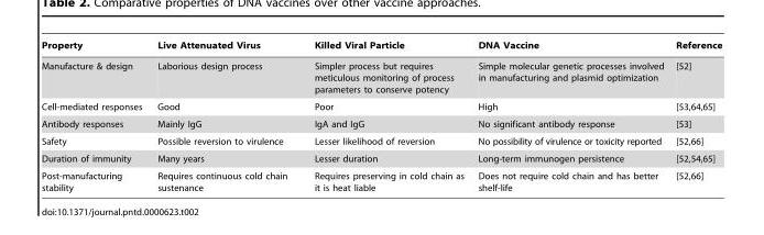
<table><thead><tr><td>Property</td><td>Live Attenuated Virus</td><td>Killed Viral Particle</td><td>DNA Vaccine</td><td>Reference</td></tr></thead><tbody><tr><td>Manufacture &amp; design</td><td>Laborious design process</td><td>Simpler process but requires meticulous monitoring of process parameters to conserve potency</td><td>Simple molecular genetic processes involved in manufacturing and plasmid optimization</td><td>[52]</td></tr><tr><td>Cell-mediated responses</td><td>Good</td><td>Poor</td><td>High</td><td>[53,64,65]</td></tr><tr><td>Antibody responses</td><td>Mainly IgG</td><td>IgA and IgG</td><td>No significant antibody response</td><td>[53]</td></tr><tr><td>Safety</td><td>Possible reversion to virulence</td><td>Lesser likelihood of reversion</td><td>No possibility of virulence or toxicity reported</td><td>[52,66]</td></tr><tr><td>Duration of immunity</td><td>Many years</td><td>Lesser duration</td><td>Long-term immunogen persistence</td><td>[52,54,65]</td></tr><tr><td>Post-manufacturing stability</td><td>Requires continuous cold chain sustenance</td><td>Requires preserving in cold chain as it is heat liable</td><td>Does not require cold chain and has better shelf-life</td><td>[52,66]</td></tr></tbody></table>